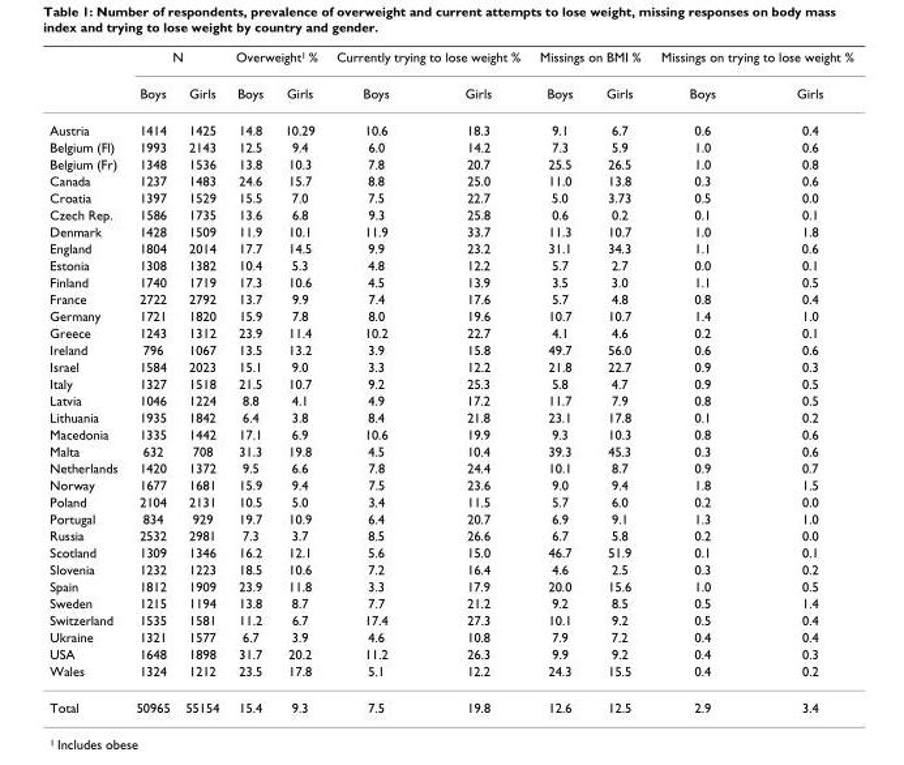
<table><thead><tr><td rowspan="2"></td><td colspan="2">N</td><td colspan="2">Overweight<sup>1</sup> %</td><td colspan="2">Currently trying to lose weight %</td><td colspan="2">Missings on BMI %</td><td colspan="2">Missings on trying to lose weight %</td></tr><tr><td>Boys</td><td>Girls</td><td>Boys</td><td>Girls</td><td>Boys</td><td>Girls</td><td>Boys</td><td>Girls</td><td>Boys</td><td>Girls</td></tr></thead><tbody><tr><td>Austria</td><td>1414</td><td>1425</td><td>14.8</td><td>10.29</td><td>10.6</td><td>18.3</td><td>9.1</td><td>6.7</td><td>0.6</td><td>0.4</td></tr><tr><td>Belgium (Fl)</td><td>1993</td><td>2143</td><td>12.5</td><td>9.4</td><td>6.0</td><td>14.2</td><td>7.3</td><td>5.9</td><td>1.0</td><td>0.6</td></tr><tr><td>Belgium (Fr)</td><td>1348</td><td>1536</td><td>13.8</td><td>10.3</td><td>7.8</td><td>20.7</td><td>25.5</td><td>26.5</td><td>1.0</td><td>0.8</td></tr><tr><td>Canada</td><td>1237</td><td>1483</td><td>24.6</td><td>15.7</td><td>8.8</td><td>25.0</td><td>11.0</td><td>13.8</td><td>0.3</td><td>0.6</td></tr><tr><td>Croatia</td><td>1397</td><td>1529</td><td>15.5</td><td>7.0</td><td>7.5</td><td>22.7</td><td>5.0</td><td>3.73</td><td>0.5</td><td>0.0</td></tr><tr><td>Czech Rep.</td><td>1586</td><td>1735</td><td>13.6</td><td>6.8</td><td>9.3</td><td>25.8</td><td>0.6</td><td>0.2</td><td>0.1</td><td>0.1</td></tr><tr><td>Denmark</td><td>1428</td><td>1509</td><td>11.9</td><td>10.1</td><td>11.9</td><td>33.7</td><td>11.3</td><td>10.7</td><td>1.0</td><td>1.8</td></tr><tr><td>England</td><td>1804</td><td>2014</td><td>17.7</td><td>14.5</td><td>9.9</td><td>23.2</td><td>31.1</td><td>34.3</td><td>1.1</td><td>0.6</td></tr><tr><td>Estonia</td><td>1308</td><td>1382</td><td>10.4</td><td>5.3</td><td>4.8</td><td>12.2</td><td>5.7</td><td>2.7</td><td>0.0</td><td>0.1</td></tr><tr><td>Finland</td><td>1740</td><td>1719</td><td>17.3</td><td>10.6</td><td>4.5</td><td>13.9</td><td>3.5</td><td>3.0</td><td>1.1</td><td>0.5</td></tr><tr><td>France</td><td>2722</td><td>2792</td><td>13.7</td><td>9.9</td><td>7.4</td><td>17.6</td><td>5.7</td><td>4.8</td><td>0.8</td><td>0.4</td></tr><tr><td>Germany</td><td>1721</td><td>1820</td><td>15.9</td><td>7.8</td><td>8.0</td><td>19.6</td><td>10.7</td><td>10.7</td><td>1.4</td><td>1.0</td></tr><tr><td>Greece</td><td>1243</td><td>1312</td><td>23.9</td><td>11.4</td><td>10.2</td><td>22.7</td><td>4.1</td><td>4.6</td><td>0.2</td><td>0.1</td></tr><tr><td>Ireland</td><td>796</td><td>1067</td><td>13.5</td><td>13.2</td><td>3.9</td><td>15.8</td><td>49.7</td><td>56.0</td><td>0.6</td><td>0.6</td></tr><tr><td>Israel</td><td>1584</td><td>2023</td><td>15.1</td><td>9.0</td><td>3.3</td><td>12.2</td><td>21.8</td><td>22.7</td><td>0.9</td><td>0.3</td></tr><tr><td>Italy</td><td>1327</td><td>1518</td><td>21.5</td><td>10.7</td><td>9.2</td><td>25.3</td><td>5.8</td><td>4.7</td><td>0.9</td><td>0.5</td></tr><tr><td>Latvia</td><td>1046</td><td>1224</td><td>8.8</td><td>4.1</td><td>4.9</td><td>17.2</td><td>11.7</td><td>7.9</td><td>0.8</td><td>0.5</td></tr><tr><td>Lithuania</td><td>1935</td><td>1842</td><td>6.4</td><td>3.8</td><td>8.4</td><td>21.8</td><td>23.1</td><td>17.8</td><td>0.1</td><td>0.2</td></tr><tr><td>Macedonia</td><td>1335</td><td>1442</td><td>17.1</td><td>6.9</td><td>10.6</td><td>19.9</td><td>9.3</td><td>10.3</td><td>0.8</td><td>0.6</td></tr><tr><td>Malta</td><td>632</td><td>708</td><td>31.3</td><td>19.8</td><td>4.5</td><td>10.4</td><td>39.3</td><td>45.3</td><td>0.3</td><td>0.6</td></tr><tr><td>Netherlands</td><td>1420</td><td>1372</td><td>9.5</td><td>6.6</td><td>7.8</td><td>24.4</td><td>10.1</td><td>8.7</td><td>0.9</td><td>0.7</td></tr><tr><td>Norway</td><td>1677</td><td>1681</td><td>15.9</td><td>9.4</td><td>7.5</td><td>23.6</td><td>9.0</td><td>9.4</td><td>1.8</td><td>1.5</td></tr><tr><td>Poland</td><td>2104</td><td>2131</td><td>10.5</td><td>5.0</td><td>3.4</td><td>11.5</td><td>5.7</td><td>6.0</td><td>0.2</td><td>0.0</td></tr><tr><td>Portugal</td><td>834</td><td>929</td><td>19.7</td><td>10.9</td><td>6.4</td><td>20.7</td><td>6.9</td><td>9.1</td><td>1.3</td><td>1.0</td></tr><tr><td>Russia</td><td>2532</td><td>2981</td><td>7.3</td><td>3.7</td><td>8.5</td><td>26.6</td><td>6.7</td><td>5.8</td><td>0.2</td><td>0.0</td></tr><tr><td>Scotland</td><td>1309</td><td>1346</td><td>16.2</td><td>12.1</td><td>5.6</td><td>15.0</td><td>46.7</td><td>51.9</td><td>0.1</td><td>0.1</td></tr><tr><td>Slovenia</td><td>1232</td><td>1223</td><td>18.5</td><td>10.6</td><td>7.2</td><td>16.4</td><td>4.6</td><td>2.5</td><td>0.3</td><td>0.2</td></tr><tr><td>Spain</td><td>1812</td><td>1909</td><td>23.9</td><td>11.8</td><td>3.3</td><td>17.9</td><td>20.0</td><td>15.6</td><td>1.0</td><td>0.5</td></tr><tr><td>Sweden</td><td>1215</td><td>1194</td><td>13.8</td><td>8.7</td><td>7.7</td><td>21.2</td><td>9.2</td><td>8.5</td><td>0.5</td><td>1.4</td></tr><tr><td>Switzerland</td><td>1535</td><td>1581</td><td>11.2</td><td>6.7</td><td>17.4</td><td>27.3</td><td>10.1</td><td>9.2</td><td>0.5</td><td>0.4</td></tr><tr><td>Ukraine</td><td>1321</td><td>1577</td><td>6.7</td><td>3.9</td><td>4.6</td><td>10.8</td><td>7.9</td><td>7.2</td><td>0.4</td><td>0.4</td></tr><tr><td>USA</td><td>1648</td><td>1898</td><td>31.7</td><td>20.2</td><td>11.2</td><td>26.3</td><td>9.9</td><td>9.2</td><td>0.4</td><td>0.3</td></tr><tr><td>Wales</td><td>1324</td><td>1212</td><td>23.5</td><td>17.8</td><td>5.1</td><td>12.2</td><td>24.3</td><td>15.5</td><td>0.4</td><td>0.2</td></tr><tr><td>Total</td><td>50965</td><td>55154</td><td>15.4</td><td>9.3</td><td>7.5</td><td>19.8</td><td>12.6</td><td>12.5</td><td>2.9</td><td>3.4</td></tr></tbody></table>